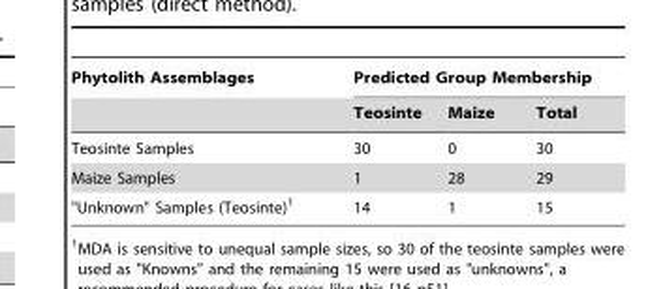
<table><thead><tr><td rowspan="2">Phytolith Assemblages</td><td colspan="3">Predicted Group Membership</td></tr><tr><td>Teosinte</td><td>Maize</td><td>Total</td></tr></thead><tbody><tr><td>Teosinte Samples</td><td>30</td><td>0</td><td>30</td></tr><tr><td>Maize Samples</td><td>1</td><td>28</td><td>29</td></tr><tr><td>&quot;Unknown&quot; Samples (Teosinte)<sup>1</sup></td><td>14</td><td>1</td><td>15</td></tr></tbody></table>